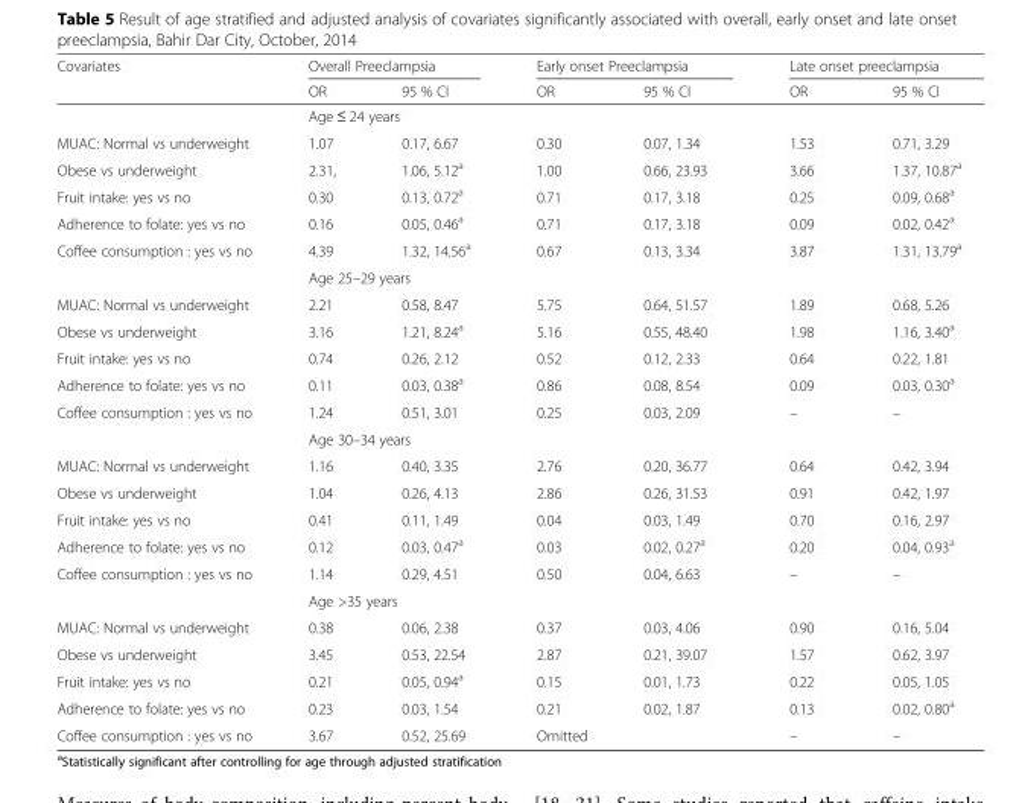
<table><thead><tr><td rowspan="2">Covariates</td><td colspan="2">Overall Preeclampsia</td><td colspan="2">Early onset Preeclampsia</td><td colspan="2">Late onset preeclampsia</td></tr><tr><td>OR</td><td>95 % CI</td><td>OR</td><td>95 % CI</td><td>OR</td><td>95 % CI</td></tr></thead><tbody><tr><td></td><td colspan="6">Age ≤ 24 years</td></tr><tr><td>MUAC: Normal vs underweight</td><td>1.07</td><td>0.17, 6.67</td><td>0.30</td><td>0.07, 1.34</td><td>1.53</td><td>0.71, 3.29</td></tr><tr><td>Obese vs underweight</td><td>2.31,</td><td>1.06, 5.12<sup>a</sup></td><td>1.00</td><td>0.66, 23.93</td><td>3.66</td><td>1.37, 10.87<sup>a</sup></td></tr><tr><td>Fruit intake: yes vs no</td><td>0.30</td><td>0.13, 0.72<sup>a</sup></td><td>0.71</td><td>0.17, 3.18</td><td>0.25</td><td>0.09, 0.68<sup>a</sup></td></tr><tr><td>Adherence to folate: yes vs no</td><td>0.16</td><td>0.05, 0.46<sup>a</sup></td><td>0.71</td><td>0.17, 3.18</td><td>0.09</td><td>0.02, 0.42<sup>a</sup></td></tr><tr><td rowspan="2">Coffee consumption : yes vs no</td><td>4.39</td><td>1.32, 14.56<sup>a</sup></td><td>0.67</td><td>0.13, 3.34</td><td>3.87</td><td>1.31, 13.79<sup>a</sup></td></tr><tr><td colspan="6">Age 25–29 years</td></tr><tr><td>MUAC: Normal vs underweight</td><td>2.21</td><td>0.58, 8.47</td><td>5.75</td><td>0.64, 51.57</td><td>1.89</td><td>0.68, 5.26</td></tr><tr><td>Obese vs underweight</td><td>3.16</td><td>1.21, 8.24<sup>a</sup></td><td>5.16</td><td>0.55, 48.40</td><td>1.98</td><td>1.16, 3.40<sup>a</sup></td></tr><tr><td>Fruit intake: yes vs no</td><td>0.74</td><td>0.26, 2.12</td><td>0.52</td><td>0.12, 2.33</td><td>0.64</td><td>0.22, 1.81</td></tr><tr><td>Adherence to folate: yes vs no</td><td>0.11</td><td>0.03, 0.38<sup>a</sup></td><td>0.86</td><td>0.08, 8.54</td><td>0.09</td><td>0.03, 0.30<sup>a</sup></td></tr><tr><td rowspan="2">Coffee consumption : yes vs no</td><td>1.24</td><td>0.51, 3.01</td><td>0.25</td><td>0.03, 2.09</td><td>–</td><td>–</td></tr><tr><td colspan="6">Age 30–34 years</td></tr><tr><td>MUAC: Normal vs underweight</td><td>1.16</td><td>0.40, 3.35</td><td>2.76</td><td>0.20, 36.77</td><td>0.64</td><td>0.42, 3.94</td></tr><tr><td>Obese vs underweight</td><td>1.04</td><td>0.26, 4.13</td><td>2.86</td><td>0.26, 31.53</td><td>0.91</td><td>0.42, 1.97</td></tr><tr><td>Fruit intake: yes vs no</td><td>0.41</td><td>0.11, 1.49</td><td>0.04</td><td>0.03, 1.49</td><td>0.70</td><td>0.16, 2.97</td></tr><tr><td>Adherence to folate: yes vs no</td><td>0.12</td><td>0.03, 0.47<sup>a</sup></td><td>0.03</td><td>0.02, 0.27<sup>a</sup></td><td>0.20</td><td>0.04, 0.93<sup>a</sup></td></tr><tr><td rowspan="2">Coffee consumption : yes vs no</td><td>1.14</td><td>0.29, 4.51</td><td>0.50</td><td>0.04, 6.63</td><td>–</td><td>–</td></tr><tr><td colspan="6">Age &gt;35 years</td></tr><tr><td>MUAC: Normal vs underweight</td><td>0.38</td><td>0.06, 2.38</td><td>0.37</td><td>0.03, 4.06</td><td>0.90</td><td>0.16, 5.04</td></tr><tr><td>Obese vs underweight</td><td>3.45</td><td>0.53, 22.54</td><td>2.87</td><td>0.21, 39.07</td><td>1.57</td><td>0.62, 3.97</td></tr><tr><td>Fruit intake: yes vs no</td><td>0.21</td><td>0.05, 0.94<sup>a</sup></td><td>0.15</td><td>0.01, 1.73</td><td>0.22</td><td>0.05, 1.05</td></tr><tr><td>Adherence to folate: yes vs no</td><td>0.23</td><td>0.03, 1.54</td><td>0.21</td><td>0.02, 1.87</td><td>0.13</td><td>0.02, 0.80<sup>a</sup></td></tr><tr><td>Coffee consumption : yes vs no</td><td>3.67</td><td>0.52, 25.69</td><td colspan="2">Omitted</td><td>–</td><td>–</td></tr></tbody></table>